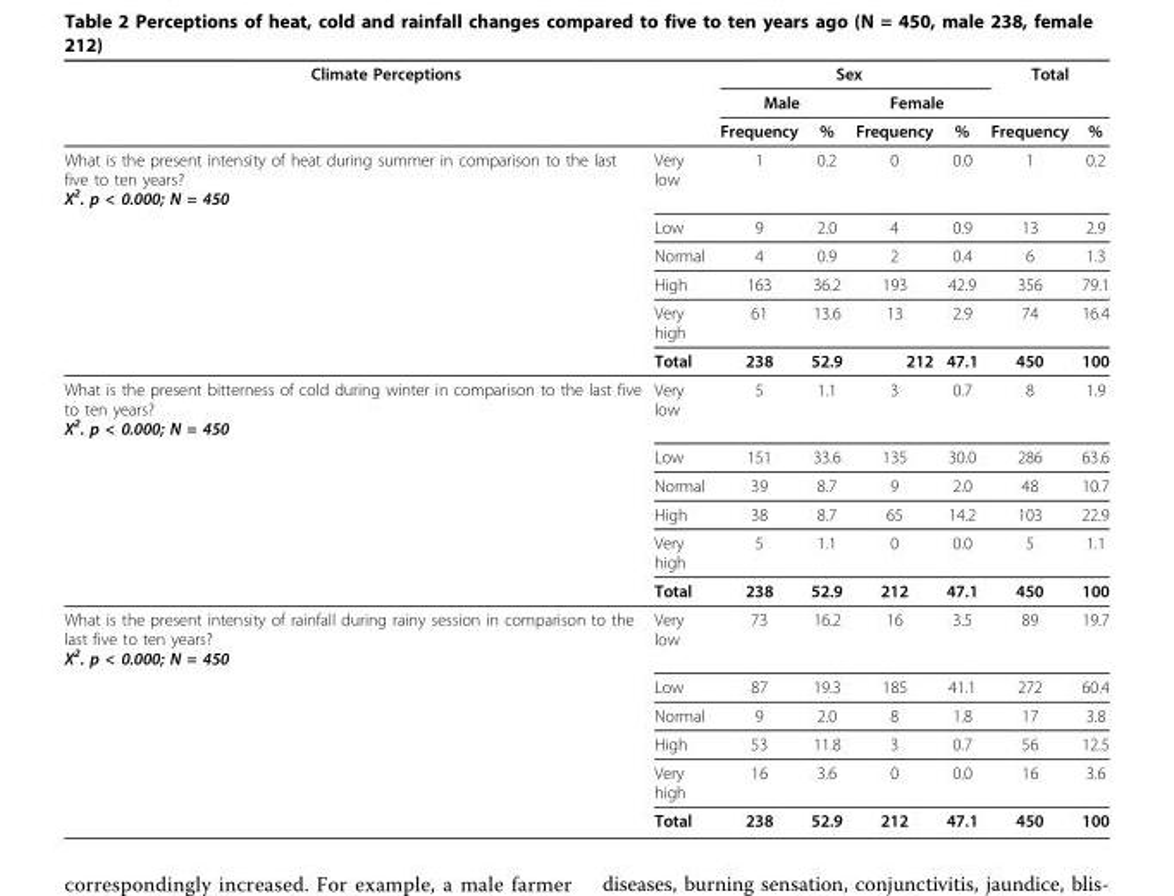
<table><thead><tr><td colspan="2">Climate Perceptions</td><td colspan="4">Sex</td><td colspan="2">Total</td></tr><tr><td rowspan="2"></td><td rowspan="2"></td><td colspan="2">Male</td><td colspan="2">Female</td><td rowspan="2">Frequency</td><td rowspan="2">%</td></tr><tr><td>Frequency</td><td>%</td><td>Frequency</td><td>%</td></tr></thead><tbody><tr><td rowspan="6">What is the present intensity of heat during summer in comparison to the last five to ten years? Χ<sup>2</sup>. p &lt; 0.000; N = 450</td><td>Very low</td><td>1</td><td>0.2</td><td>0</td><td>0.0</td><td>1</td><td>0.2</td></tr><tr><td>Low</td><td>9</td><td>2.0</td><td>4</td><td>0.9</td><td>13</td><td>2.9</td></tr><tr><td>Normal</td><td>4</td><td>0.9</td><td>2</td><td>0.4</td><td>6</td><td>1.3</td></tr><tr><td>High</td><td>163</td><td>36.2</td><td>193</td><td>42.9</td><td>356</td><td>79.1</td></tr><tr><td>Very high</td><td>61</td><td>13.6</td><td>13</td><td>2.9</td><td>74</td><td>16.4</td></tr><tr><td>Total</td><td>238</td><td>52.9</td><td>212</td><td>47.1</td><td>450</td><td>100</td></tr><tr><td rowspan="6">What is the present bitterness of cold during winter in comparison to the last five to ten years? Χ<sup>2</sup>. p &lt; 0.000; N = 450</td><td>Very low</td><td>5</td><td>1.1</td><td>3</td><td>0.7</td><td>8</td><td>1.9</td></tr><tr><td>Low</td><td>151</td><td>33.6</td><td>135</td><td>30.0</td><td>286</td><td>63.6</td></tr><tr><td>Normal</td><td>39</td><td>8.7</td><td>9</td><td>2.0</td><td>48</td><td>10.7</td></tr><tr><td>High</td><td>38</td><td>8.7</td><td>65</td><td>14.2</td><td>103</td><td>22.9</td></tr><tr><td>Very high</td><td>5</td><td>1.1</td><td>0</td><td>0.0</td><td>5</td><td>1.1</td></tr><tr><td>Total</td><td>238</td><td>52.9</td><td>212</td><td>47.1</td><td>450</td><td>100</td></tr><tr><td rowspan="6">What is the present intensity of rainfall during rainy session in comparison to the last five to ten years? Χ<sup>2</sup>. p &lt; 0.000; N = 450</td><td>Very low</td><td>73</td><td>16.2</td><td>16</td><td>3.5</td><td>89</td><td>19.7</td></tr><tr><td>Low</td><td>87</td><td>19.3</td><td>185</td><td>41.1</td><td>272</td><td>60.4</td></tr><tr><td>Normal</td><td>9</td><td>2.0</td><td>8</td><td>1.8</td><td>17</td><td>3.8</td></tr><tr><td>High</td><td>53</td><td>11.8</td><td>3</td><td>0.7</td><td>56</td><td>12.5</td></tr><tr><td>Very high</td><td>16</td><td>3.6</td><td>0</td><td>0.0</td><td>16</td><td>3.6</td></tr><tr><td>Total</td><td>238</td><td>52.9</td><td>212</td><td>47.1</td><td>450</td><td>100</td></tr></tbody></table>